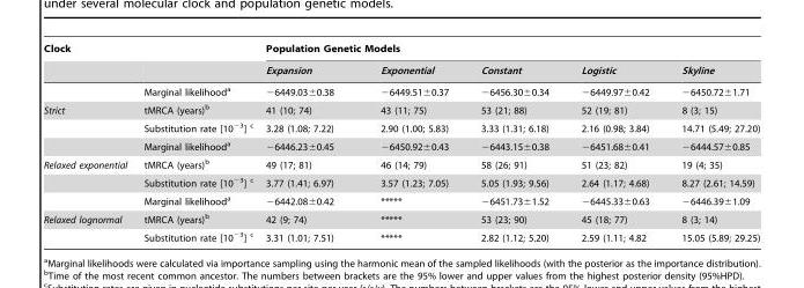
<table><thead><tr><td rowspan="2">Clock</td><td rowspan="2"></td><td colspan="5">Population Genetic Models</td></tr><tr><td>Expansion</td><td>Exponential</td><td>Constant</td><td>Logistic</td><td>Skyline</td></tr></thead><tbody><tr><td></td><td>Marginal likelihood<sup>a</sup></td><td>−6449.03±0.38</td><td>−6449.51±0.37</td><td>−6456.30±0.34</td><td>−6449.97±0.42</td><td>−6450.72±1.71</td></tr><tr><td rowspan="3">Strict</td><td>tMRCA (years)<sup>b</sup></td><td>41 (10; 74)</td><td>43 (11; 75)</td><td>53 (21; 88)</td><td>52 (19; 81)</td><td>8 (3; 15)</td></tr><tr><td>Substitution rate [10<sup>−3</sup>] c</td><td>3.28 (1.08; 7.22)</td><td>2.90 (1.00; 5.83)</td><td>3.33 (1.31; 6.18)</td><td>2.16 (0.98; 3.84)</td><td>14.71 (5.49; 27.20)</td></tr><tr><td>Marginal likelihood<sup>a</sup></td><td>−6446.23±0.45</td><td>−6450.92±0.43</td><td>−6443.15±0.38</td><td>−6451.68±0.41</td><td>−6444.57±0.85</td></tr><tr><td rowspan="3">Relaxed exponential</td><td>tMRCA (years)<sup>b</sup></td><td>49 (17; 81)</td><td>46 (14; 79)</td><td>58 (26; 91)</td><td>51 (23; 82)</td><td>19 (4; 35)</td></tr><tr><td>Substitution rate [10<sup>−3</sup>] c</td><td>3.77 (1.41; 6.97)</td><td>3.57 (1.23; 7.05)</td><td>5.05 (1.93; 9.56)</td><td>2.64 (1.17; 4.68)</td><td>8.27 (2.61; 14.59)</td></tr><tr><td>Marginal likelihood<sup>a</sup></td><td>−6442.08±0.42</td><td>*****</td><td>−6451.73±1.52</td><td>−6445.33±0.63</td><td>−6446.39±1.09</td></tr><tr><td rowspan="2">Relaxed lognormal</td><td>tMRCA (years)<sup>b</sup></td><td>42 (9; 74)</td><td>*****</td><td>53 (23; 90)</td><td>45 (18; 77)</td><td>8 (3; 14)</td></tr><tr><td>Substitution rate [10<sup>−3</sup>] c</td><td>3.31 (1.01; 7.51)</td><td>*****</td><td>2.82 (1.12; 5.20)</td><td>2.59 (1.11; 4.82</td><td>15.05 (5.89; 29.25)</td></tr></tbody></table>